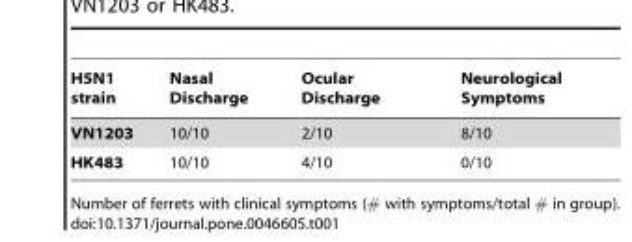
<table><thead><tr><td>H5N1 strain</td><td>Nasal Discharge</td><td>Ocular Discharge</td><td>Neurological Symptoms</td></tr></thead><tbody><tr><td>VN1203</td><td>10/10</td><td>2/10</td><td>8/10</td></tr><tr><td>HK483</td><td>10/10</td><td>4/10</td><td>0/10</td></tr></tbody></table>